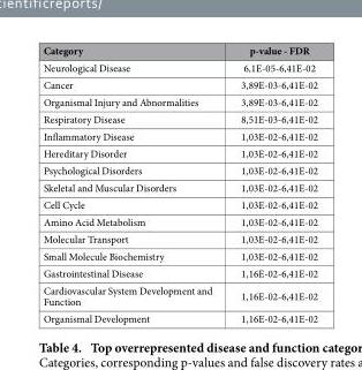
<table><thead><tr><td>Category</td><td>p-value - FDR</td></tr></thead><tbody><tr><td>Neurological Disease</td><td>6,1E-05-6,41E-02</td></tr><tr><td>Cancer</td><td>3,89E-03-6,41E-02</td></tr><tr><td>Organismal Injury and Abnormalities</td><td>3,89E-03-6,41E-02</td></tr><tr><td>Respiratory Disease</td><td>8,51E-03-6,41E-02</td></tr><tr><td>Inflammatory Disease</td><td>1,03E-02-6,41E-02</td></tr><tr><td>Hereditary Disorder</td><td>1,03E-02-6,41E-02</td></tr><tr><td>Psychological Disorders</td><td>1,03E-02-6,41E-02</td></tr><tr><td>Skeletal and Muscular Disorders</td><td>1,03E-02-6,41E-02</td></tr><tr><td>Cell Cycle</td><td>1,03E-02-6,41E-02</td></tr><tr><td>Amino Acid Metabolism</td><td>1,03E-02-6,41E-02</td></tr><tr><td>Molecular Transport</td><td>1,03E-02-6,41E-02</td></tr><tr><td>Small Molecule Biochemistry</td><td>1,03E-02-6,41E-02</td></tr><tr><td>Gastrointestinal Disease</td><td>1,16E-02-6,41E-02</td></tr><tr><td>Cardiovascular System Development and Function</td><td>1,16E-02-6,41E-02</td></tr><tr><td>Organismal Development</td><td>1,16E-02-6,41E-02</td></tr></tbody></table>